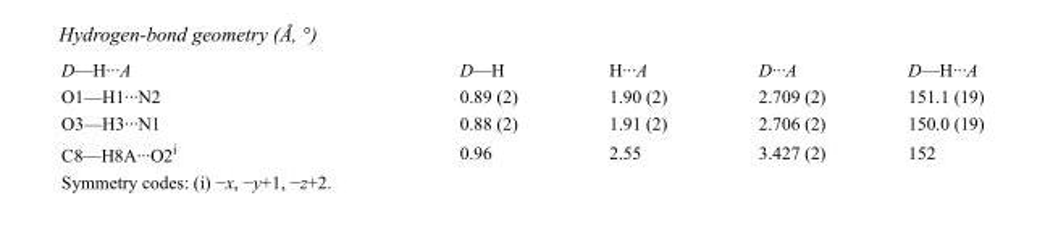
<table><tbody><tr><td>D—H···A</td><td>D—H</td><td>H···A</td><td>D···A</td><td>D—H···A</td></tr><tr><td>O1—H1···N2</td><td>0.89 (2)</td><td>1.90 (2)</td><td>2.709 (2)</td><td>151.1 (19)</td></tr><tr><td>O3—H3···N1</td><td>0.88 (2)</td><td>1.91 (2)</td><td>2.706 (2)</td><td>150.0 (19)</td></tr><tr><td>C8—H8A···O2<sup>i</sup></td><td>0.96</td><td>2.55</td><td>3.427 (2)</td><td>152</td></tr></tbody></table>